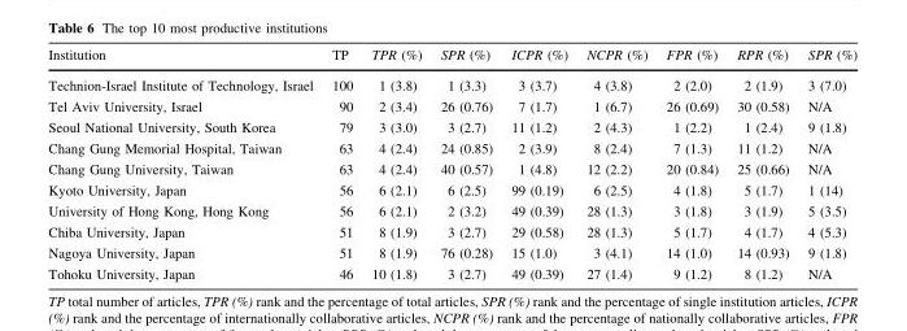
<table><thead><tr><td>Institution</td><td>TP</td><td>TPR (%)</td><td>SPR (%)</td><td>ICPR (%)</td><td>NCPR (%)</td><td>FPR (%)</td><td>RPR (%)</td><td>SPR (%)</td></tr></thead><tbody><tr><td>Technion-Israel Institute of Technology, Israel</td><td>100</td><td>1 (3.8)</td><td>1 (3.3)</td><td>3 (3.7)</td><td>4 (3.8)</td><td>2 (2.0)</td><td>2 (1.9)</td><td>3 (7.0)</td></tr><tr><td>Tel Aviv University, Israel</td><td>90</td><td>2 (3.4)</td><td>26 (0.76)</td><td>7 (1.7)</td><td>1 (6.7)</td><td>26 (0.69)</td><td>30 (0.58)</td><td>N/A</td></tr><tr><td>Seoul National University, South Korea</td><td>79</td><td>3 (3.0)</td><td>3 (2.7)</td><td>11 (1.2)</td><td>2 (4.3)</td><td>1 (2.2)</td><td>1 (2.4)</td><td>9 (1.8)</td></tr><tr><td>Chang Gung Memorial Hospital, Taiwan</td><td>63</td><td>4 (2.4)</td><td>24 (0.85)</td><td>2 (3.9)</td><td>8 (2.4)</td><td>7 (1.3)</td><td>11 (1.2)</td><td>N/A</td></tr><tr><td>Chang Gung University, Taiwan</td><td>63</td><td>4 (2.4)</td><td>40 (0.57)</td><td>1 (4.8)</td><td>12 (2.2)</td><td>20 (0.84)</td><td>25 (0.66)</td><td>N/A</td></tr><tr><td>Kyoto University, Japan</td><td>56</td><td>6 (2.1)</td><td>6 (2.5)</td><td>99 (0.19)</td><td>6 (2.5)</td><td>4 (1.8)</td><td>5 (1.7)</td><td>1 (14)</td></tr><tr><td>University of Hong Kong, Hong Kong</td><td>56</td><td>6 (2.1)</td><td>2 (3.2)</td><td>49 (0.39)</td><td>28 (1.3)</td><td>3 (1.8)</td><td>3 (1.9)</td><td>5 (3.5)</td></tr><tr><td>Chiba University, Japan</td><td>51</td><td>8 (1.9)</td><td>3 (2.7)</td><td>29 (0.58)</td><td>28 (1.3)</td><td>5 (1.7)</td><td>4 (1.7)</td><td>4 (5.3)</td></tr><tr><td>Nagoya University, Japan</td><td>51</td><td>8 (1.9)</td><td>76 (0.28)</td><td>15 (1.0)</td><td>3 (4.1)</td><td>14 (1.0)</td><td>14 (0.93)</td><td>9 (1.8)</td></tr><tr><td>Tohoku University, Japan</td><td>46</td><td>10 (1.8)</td><td>3 (2.7)</td><td>49 (0.39)</td><td>27 (1.4)</td><td>9 (1.2)</td><td>8 (1.2)</td><td>N/A</td></tr></tbody></table>